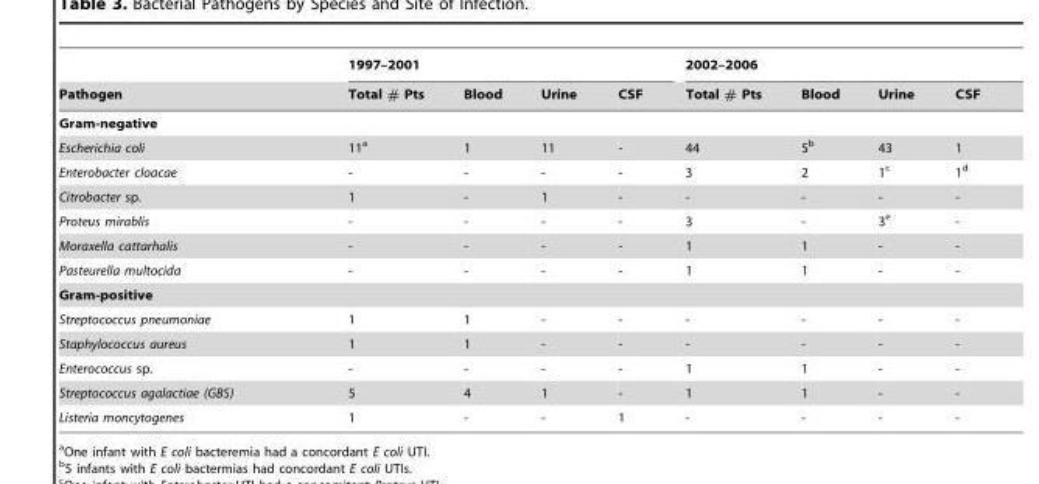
<table><thead><tr><td rowspan="2">Pathogen</td><td colspan="4">1997–2001</td><td colspan="4">2002–2006</td></tr><tr><td>Total # Pts</td><td>Blood</td><td>Urine</td><td>CSF</td><td>Total # Pts</td><td>Blood</td><td>Urine</td><td>CSF</td></tr></thead><tbody><tr><td colspan="9">Gram-negative</td></tr><tr><td>Escherichia coli</td><td>11<sup>a</sup></td><td>1</td><td>11</td><td>-</td><td>44</td><td>5<sup>b</sup></td><td>43</td><td>1</td></tr><tr><td>Enterobacter cloacae</td><td>-</td><td>-</td><td>-</td><td>-</td><td>3</td><td>2</td><td>1<sup>c</sup></td><td>1<sup>d</sup></td></tr><tr><td>Citrobacter sp.</td><td>1</td><td>-</td><td>1</td><td>-</td><td>-</td><td>-</td><td>-</td><td>-</td></tr><tr><td>Proteus mirablis</td><td>-</td><td>-</td><td>-</td><td>-</td><td>3</td><td>-</td><td>3<sup>e</sup></td><td>-</td></tr><tr><td>Moraxella cattarhalis</td><td>-</td><td>-</td><td>-</td><td>-</td><td>1</td><td>1</td><td>-</td><td>-</td></tr><tr><td>Pasteurella multocida</td><td>-</td><td>-</td><td>-</td><td>-</td><td>1</td><td>1</td><td>-</td><td>-</td></tr><tr><td colspan="9">Gram-positive</td></tr><tr><td>Streptococcus pneumoniae</td><td>1</td><td>1</td><td>-</td><td>-</td><td>-</td><td>-</td><td>-</td><td>-</td></tr><tr><td>Staphylococcus aureus</td><td>1</td><td>1</td><td>-</td><td>-</td><td>-</td><td>-</td><td>-</td><td>-</td></tr><tr><td>Enterococcus sp.</td><td>-</td><td>-</td><td>-</td><td>-</td><td>1</td><td>1</td><td>-</td><td>-</td></tr><tr><td>Streptococcus agalactiae (GBS)</td><td>5</td><td>4</td><td>1</td><td>-</td><td>1</td><td>1</td><td>-</td><td>-</td></tr><tr><td>Listeria moncytogenes</td><td>1</td><td>-</td><td>-</td><td>1</td><td>-</td><td>-</td><td>-</td><td>-</td></tr></tbody></table>